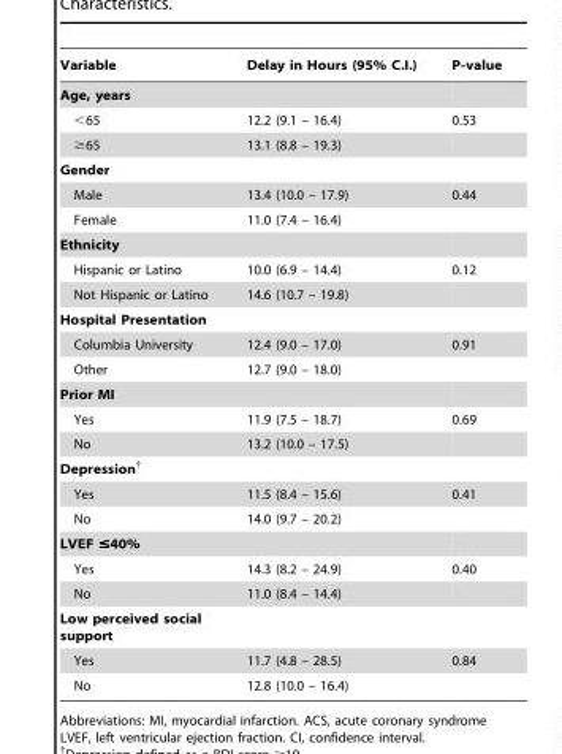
<table><thead><tr><td>Variable</td><td>Delay in Hours (95% C.I.)</td><td>P-value</td></tr></thead><tbody><tr><td colspan="3">Age, years</td></tr><tr><td>&lt;65</td><td>12.2 (9.1 – 16.4)</td><td>0.53</td></tr><tr><td>≥65</td><td>13.1 (8.8 – 19.3)</td><td></td></tr><tr><td colspan="3">Gender</td></tr><tr><td>Male</td><td>13.4 (10.0 – 17.9)</td><td>0.44</td></tr><tr><td>Female</td><td>11.0 (7.4 – 16.4)</td><td></td></tr><tr><td colspan="3">Ethnicity</td></tr><tr><td>Hispanic or Latino</td><td>10.0 (6.9 – 14.4)</td><td>0.12</td></tr><tr><td>Not Hispanic or Latino</td><td>14.6 (10.7 – 19.8)</td><td></td></tr><tr><td colspan="3">Hospital Presentation</td></tr><tr><td>Columbia University</td><td>12.4 (9.0 – 17.0)</td><td>0.91</td></tr><tr><td>Other</td><td>12.7 (9.0 – 18.0)</td><td></td></tr><tr><td colspan="3">Prior MI</td></tr><tr><td>Yes</td><td>11.9 (7.5 – 18.7)</td><td>0.69</td></tr><tr><td>No</td><td>13.2 (10.0 – 17.5)</td><td></td></tr><tr><td colspan="3">Depression†</td></tr><tr><td>Yes</td><td>11.5 (8.4 – 15.6)</td><td>0.41</td></tr><tr><td>No</td><td>14.0 (9.7 – 20.2)</td><td></td></tr><tr><td colspan="3">LVEF ≤40%</td></tr><tr><td>Yes</td><td>14.3 (8.2 – 24.9)</td><td>0.40</td></tr><tr><td>No</td><td>11.0 (8.4 – 14.4)</td><td></td></tr><tr><td colspan="3">Low perceived social support</td></tr><tr><td>Yes</td><td>11.7 (4.8 – 28.5)</td><td>0.84</td></tr><tr><td>No</td><td>12.8 (10.0 – 16.4)</td><td></td></tr></tbody></table>